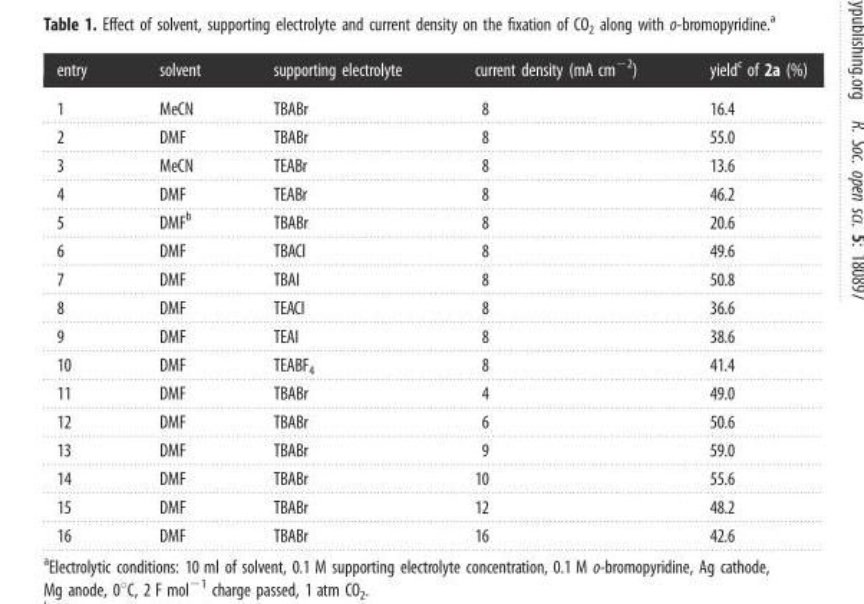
<table><thead><tr><td>entry</td><td>solvent</td><td>supporting electrolyte</td><td>current density (mA cm<sup>−2</sup>)</td><td>yield<sup>c</sup> of 2a (%)</td></tr></thead><tbody><tr><td>1</td><td>MeCN</td><td>TBABr</td><td>8</td><td>16.4</td></tr><tr><td>2</td><td>DMF</td><td>TBABr</td><td>8</td><td>55.0</td></tr><tr><td>3</td><td>MeCN</td><td>TEABr</td><td>8</td><td>13.6</td></tr><tr><td>4</td><td>DMF</td><td>TEABr</td><td>8</td><td>46.2</td></tr><tr><td>5</td><td>DMF<sup>b</sup></td><td>TBABr</td><td>8</td><td>20.6</td></tr><tr><td>6</td><td>DMF</td><td>TBACl</td><td>8</td><td>49.6</td></tr><tr><td>7</td><td>DMF</td><td>TBAI</td><td>8</td><td>50.8</td></tr><tr><td>8</td><td>DMF</td><td>TEACl</td><td>8</td><td>36.6</td></tr><tr><td>9</td><td>DMF</td><td>TEAI</td><td>8</td><td>38.6</td></tr><tr><td>10</td><td>DMF</td><td>TEABF<sub>4</sub></td><td>8</td><td>41.4</td></tr><tr><td>11</td><td>DMF</td><td>TBABr</td><td>4</td><td>49.0</td></tr><tr><td>12</td><td>DMF</td><td>TBABr</td><td>6</td><td>50.6</td></tr><tr><td>13</td><td>DMF</td><td>TBABr</td><td>9</td><td>59.0</td></tr><tr><td>14</td><td>DMF</td><td>TBABr</td><td>10</td><td>55.6</td></tr><tr><td>15</td><td>DMF</td><td>TBABr</td><td>12</td><td>48.2</td></tr><tr><td>16</td><td>DMF</td><td>TBABr</td><td>16</td><td>42.6</td></tr></tbody></table>